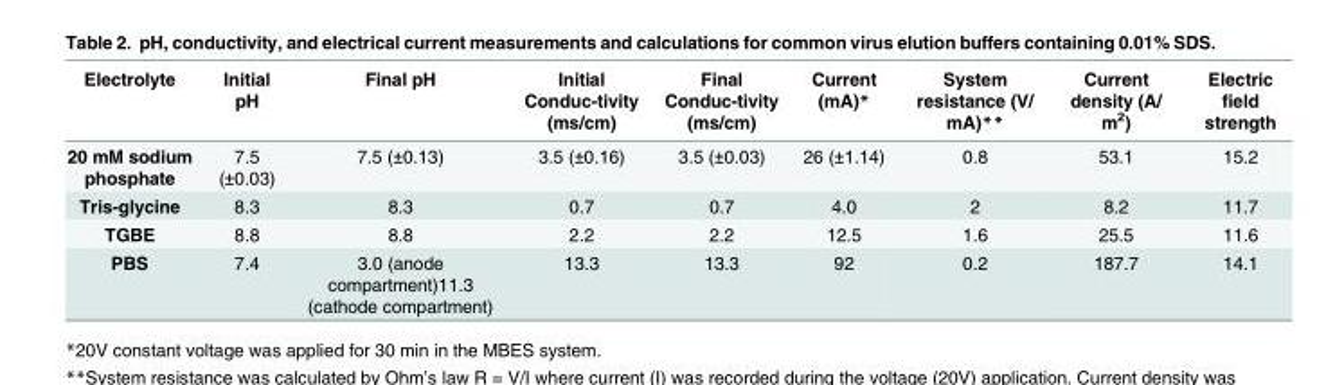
<table><thead><tr><td>Electrolyte</td><td>Initial pH</td><td>Final pH</td><td>Initial Conduc-tivity (ms/cm)</td><td>Final Conduc-tivity (ms/cm)</td><td>Current (mA)*</td><td>System resistance (V/ mA)**</td><td>Current density (A/ m<sup>2</sup>)</td><td>Electric field strength</td></tr></thead><tbody><tr><td>20 mM sodium phosphate</td><td>7.5 (±0.03)</td><td>7.5 (±0.13)</td><td>3.5 (±0.16)</td><td>3.5 (±0.03)</td><td>26 (±1.14)</td><td>0.8</td><td>53.1</td><td>15.2</td></tr><tr><td>Tris-glycine</td><td>8.3</td><td>8.3</td><td>0.7</td><td>0.7</td><td>4.0</td><td>2</td><td>8.2</td><td>11.7</td></tr><tr><td>TGBE</td><td>8.8</td><td>8.8</td><td>2.2</td><td>2.2</td><td>12.5</td><td>1.6</td><td>25.5</td><td>11.6</td></tr><tr><td>PBS</td><td>7.4</td><td>3.0 (anode compartment)11.3 (cathode compartment)</td><td>13.3</td><td>13.3</td><td>92</td><td>0.2</td><td>187.7</td><td>14.1</td></tr></tbody></table>